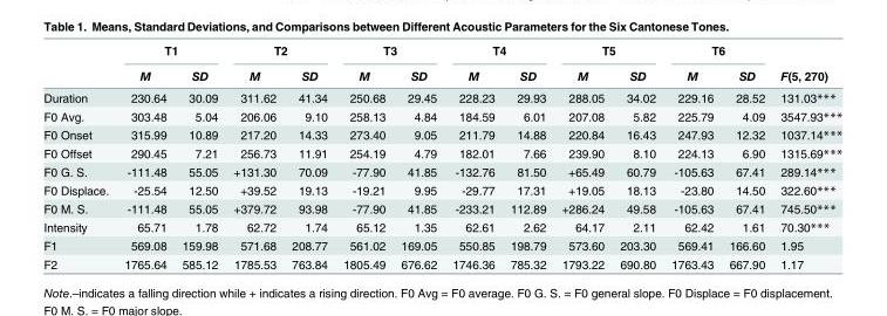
<table><thead><tr><td rowspan="2"></td><td colspan="2">T1</td><td colspan="2">T2</td><td colspan="2">T3</td><td colspan="2">T4</td><td colspan="2">T5</td><td colspan="2">T6</td><td rowspan="2">F(5, 270)</td></tr><tr><td>M</td><td>SD</td><td>M</td><td>SD</td><td>M</td><td>SD</td><td>M</td><td>SD</td><td>M</td><td>SD</td><td>M</td><td>SD</td></tr></thead><tbody><tr><td>Duration</td><td>230.64</td><td>30.09</td><td>311.62</td><td>41.34</td><td>250.68</td><td>29.45</td><td>228.23</td><td>29.93</td><td>288.05</td><td>34.02</td><td>229.16</td><td>28.52</td><td>131.03***</td></tr><tr><td>F0 Avg.</td><td>303.48</td><td>5.04</td><td>206.06</td><td>9.10</td><td>258.13</td><td>4.84</td><td>184.59</td><td>6.01</td><td>207.08</td><td>5.82</td><td>225.79</td><td>4.09</td><td>3547.93***</td></tr><tr><td>F0 Onset</td><td>315.99</td><td>10.89</td><td>217.20</td><td>14.33</td><td>273.40</td><td>9.05</td><td>211.79</td><td>14.88</td><td>220.84</td><td>16.43</td><td>247.93</td><td>12.32</td><td>1037.14***</td></tr><tr><td>F0 Offset</td><td>290.45</td><td>7.21</td><td>256.73</td><td>11.91</td><td>254.19</td><td>4.79</td><td>182.01</td><td>7.66</td><td>239.90</td><td>8.10</td><td>224.13</td><td>6.90</td><td>1315.69***</td></tr><tr><td>F0 G. S.</td><td>-111.48</td><td>55.05</td><td>+131.30</td><td>70.09</td><td>-77.90</td><td>41.85</td><td>-132.76</td><td>81.50</td><td>+65.49</td><td>60.79</td><td>-105.63</td><td>67.41</td><td>289.14***</td></tr><tr><td>F0 Displace.</td><td>-25.54</td><td>12.50</td><td>+39.52</td><td>19.13</td><td>-19.21</td><td>9.95</td><td>-29.77</td><td>17.31</td><td>+19.05</td><td>18.13</td><td>-23.80</td><td>14.50</td><td>322.60***</td></tr><tr><td>F0 M. S.</td><td>-111.48</td><td>55.05</td><td>+379.72</td><td>93.98</td><td>-77.90</td><td>41.85</td><td>-233.21</td><td>112.89</td><td>+286.24</td><td>49.58</td><td>-105.63</td><td>67.41</td><td>745.50***</td></tr><tr><td>Intensity</td><td>65.71</td><td>1.78</td><td>62.72</td><td>1.74</td><td>65.12</td><td>1.35</td><td>62.61</td><td>2.62</td><td>64.17</td><td>2.11</td><td>62.42</td><td>1.61</td><td>70.30***</td></tr><tr><td>F1</td><td>569.08</td><td>159.98</td><td>571.68</td><td>208.77</td><td>561.02</td><td>169.05</td><td>550.85</td><td>198.79</td><td>573.60</td><td>203.30</td><td>569.41</td><td>166.60</td><td>1.95</td></tr><tr><td>F2</td><td>1765.64</td><td>585.12</td><td>1785.53</td><td>763.84</td><td>1805.49</td><td>676.62</td><td>1746.36</td><td>785.32</td><td>1793.22</td><td>690.80</td><td>1763.43</td><td>667.90</td><td>1.17</td></tr></tbody></table>